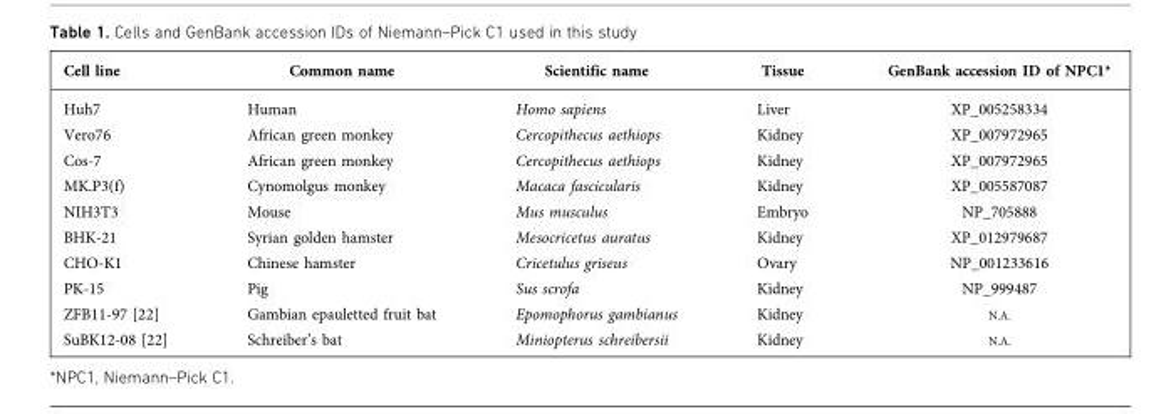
<table><thead><tr><td>Cell line</td><td>Common name</td><td>Scientific name</td><td>Tissue</td><td>GenBank accession ID of NPC1*</td></tr></thead><tbody><tr><td>Huh7</td><td>Human</td><td>Homo sapiens</td><td>Liver</td><td>XP_005258334</td></tr><tr><td>Vero76</td><td>African green monkey</td><td>Cercopithecus aethiops</td><td>Kidney</td><td>XP_007972965</td></tr><tr><td>Cos-7</td><td>African green monkey</td><td>Cercopithecus aethiops</td><td>Kidney</td><td>XP_007972965</td></tr><tr><td>MK.P3(f)</td><td>Cynomolgus monkey</td><td>Macaca fascicularis</td><td>Kidney</td><td>XP_005587087</td></tr><tr><td>NIH3T3</td><td>Mouse</td><td>Mus musculus</td><td>Embryo</td><td>NP_705888</td></tr><tr><td>BHK-21</td><td>Syrian golden hamster</td><td>Mesocricetus auratus</td><td>Kidney</td><td>XP_012979687</td></tr><tr><td>CHO-K1</td><td>Chinese hamster</td><td>Cricetulus griseus</td><td>Ovary</td><td>NP_001233616</td></tr><tr><td>PK-15</td><td>Pig</td><td>Sus scrofa</td><td>Kidney</td><td>NP_999487</td></tr><tr><td>ZFB11-97 [22]</td><td>Gambian epauletted fruit bat</td><td>Epomophorus gambianus</td><td>Kidney</td><td>N.A.</td></tr><tr><td>SuBK12-08 [22]</td><td>Schreiber’s bat</td><td>Miniopterus schreibersii</td><td>Kidney</td><td>N.A.</td></tr></tbody></table>